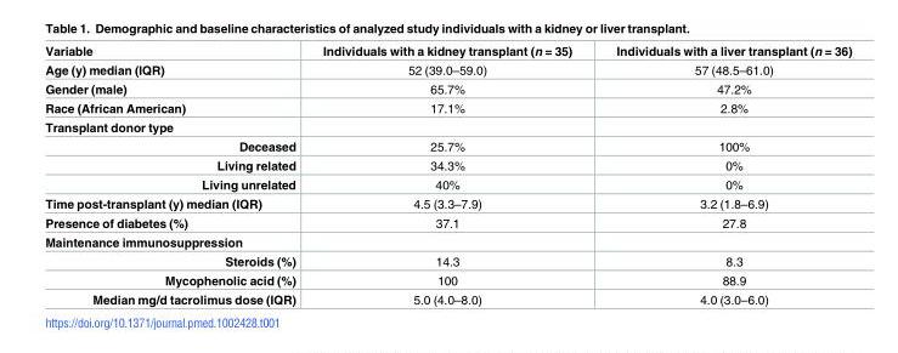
<table><thead><tr><td>Variable</td><td>Individuals with a kidney transplant (n = 35)</td><td>Individuals with a liver transplant (n = 36)</td></tr></thead><tbody><tr><td>Age (y) median (IQR)</td><td>52 (39.0–59.0)</td><td>57 (48.5–61.0)</td></tr><tr><td>Gender (male)</td><td>65.7%</td><td>47.2%</td></tr><tr><td>Race (African American)</td><td>17.1%</td><td>2.8%</td></tr><tr><td colspan="3">Transplant donor type</td></tr><tr><td>Deceased</td><td>25.7%</td><td>100%</td></tr><tr><td>Living related</td><td>34.3%</td><td>0%</td></tr><tr><td>Living unrelated</td><td>40%</td><td>0%</td></tr><tr><td>Time post-transplant (y) median (IQR)</td><td>4.5 (3.3–7.9)</td><td>3.2 (1.8–6.9)</td></tr><tr><td>Presence of diabetes (%)</td><td>37.1</td><td>27.8</td></tr><tr><td colspan="3">Maintenance immunosuppression</td></tr><tr><td>Steroids (%)</td><td>14.3</td><td>8.3</td></tr><tr><td>Mycophenolic acid (%)</td><td>100</td><td>88.9</td></tr><tr><td>Median mg/d tacrolimus dose (IQR)</td><td>5.0 (4.0–8.0)</td><td>4.0 (3.0–6.0)</td></tr></tbody></table>